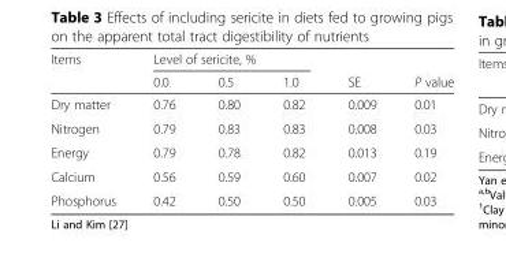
<table><thead><tr><td rowspan="2">Items</td><td colspan="3">Level of sericite, %</td><td rowspan="2">SE</td><td rowspan="2">P value</td></tr><tr><td>0.0</td><td>0.5</td><td>1.0</td></tr></thead><tbody><tr><td>Dry matter</td><td>0.76</td><td>0.80</td><td>0.82</td><td>0.009</td><td>0.01</td></tr><tr><td>Nitrogen</td><td>0.79</td><td>0.83</td><td>0.83</td><td>0.008</td><td>0.03</td></tr><tr><td>Energy</td><td>0.79</td><td>0.78</td><td>0.82</td><td>0.013</td><td>0.19</td></tr><tr><td>Calcium</td><td>0.56</td><td>0.59</td><td>0.60</td><td>0.007</td><td>0.02</td></tr><tr><td>Phosphorus</td><td>0.42</td><td>0.50</td><td>0.50</td><td>0.005</td><td>0.03</td></tr></tbody></table>